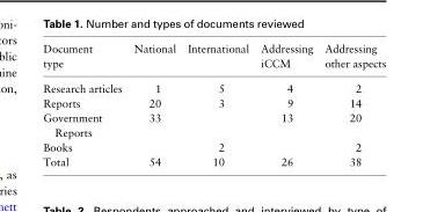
<table><thead><tr><td>Document type</td><td>National</td><td>International</td><td>Addressing iCCM</td><td>Addressing other aspects</td></tr></thead><tbody><tr><td>Research articles</td><td>1</td><td>5</td><td>4</td><td>2</td></tr><tr><td>Reports</td><td>20</td><td>3</td><td>9</td><td>14</td></tr><tr><td>Government Reports</td><td>33</td><td></td><td>13</td><td>20</td></tr><tr><td>Books</td><td></td><td>2</td><td></td><td>2</td></tr><tr><td>Total</td><td>54</td><td>10</td><td>26</td><td>38</td></tr></tbody></table>